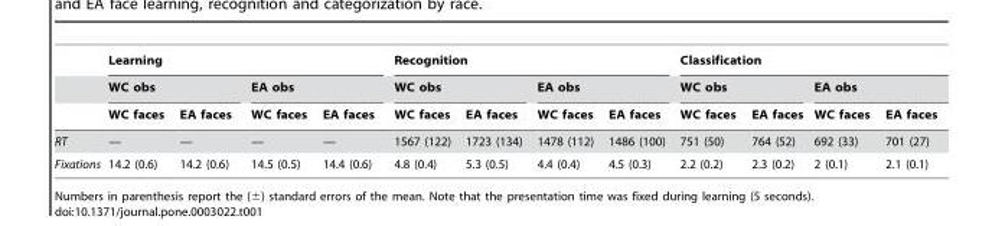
<table><thead><tr><td rowspan="3"></td><td colspan="4">Learning</td><td colspan="4">Recognition</td><td colspan="4">Classification</td></tr><tr><td colspan="2">WC obs</td><td colspan="2">EA obs</td><td colspan="2">WC obs</td><td colspan="2">EA obs</td><td colspan="2">WC obs</td><td colspan="2">EA obs</td></tr><tr><td>WC faces</td><td>EA faces</td><td>WC faces</td><td>EA faces</td><td>WC faces</td><td>EA faces</td><td>WC faces</td><td>EA faces</td><td>WC faces</td><td>EA faces</td><td>WC faces</td><td>EA faces</td></tr></thead><tbody><tr><td>RT</td><td>—</td><td>—</td><td>—</td><td>—</td><td>1567 (122)</td><td>1723 (134)</td><td>1478 (112)</td><td>1486 (100)</td><td>751 (50)</td><td>764 (52)</td><td>692 (33)</td><td>701 (27)</td></tr><tr><td>Fixations</td><td>14.2 (0.6)</td><td>14.2 (0.6)</td><td>14.5 (0.5)</td><td>14.4 (0.6)</td><td>4.8 (0.4)</td><td>5.3 (0.5)</td><td>4.4 (0.4)</td><td>4.5 (0.3)</td><td>2.2 (0.2)</td><td>2.3 (0.2)</td><td>2 (0.1)</td><td>2.1 (0.1)</td></tr></tbody></table>